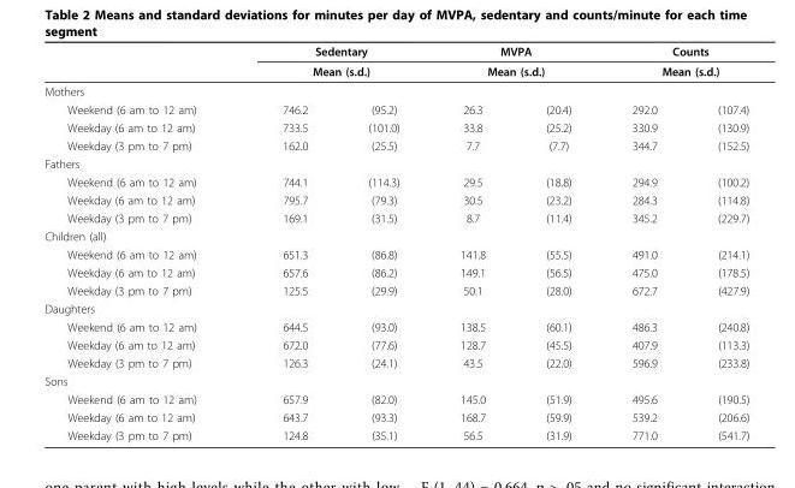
<table><thead><tr><td rowspan="3">Mothers</td><td rowspan="2" colspan="2">Sedentary Mean (s.d.)</td><td rowspan="2" colspan="2">MVPA Mean (s.d.)</td><td rowspan="2" colspan="2">Counts Mean (s.d.)</td></tr><tr></tr><tr><td></td><td></td><td></td><td></td><td></td><td></td></tr></thead><tbody><tr><td>Weekend (6 am to 12 am)</td><td>746.2</td><td>(95.2)</td><td>26.3</td><td>(20.4)</td><td>292.0</td><td>(107.4)</td></tr><tr><td>Weekday (6 am to 12 am)</td><td>733.5</td><td>(101.0)</td><td>33.8</td><td>(25.2)</td><td>330.9</td><td>(130.9)</td></tr><tr><td>Weekday (3 pm to 7 pm)</td><td>162.0</td><td>(25.5)</td><td>7.7</td><td>(7.7)</td><td>344.7</td><td>(152.5)</td></tr><tr><td colspan="7">Fathers</td></tr><tr><td>Weekend (6 am to 12 am)</td><td>744.1</td><td>(114.3)</td><td>29.5</td><td>(18.8)</td><td>294.9</td><td>(100.2)</td></tr><tr><td>Weekday (6 am to 12 am)</td><td>795.7</td><td>(79.3)</td><td>30.5</td><td>(23.2)</td><td>284.3</td><td>(114.8)</td></tr><tr><td>Weekday (3 pm to 7 pm)</td><td>169.1</td><td>(31.5)</td><td>8.7</td><td>(11.4)</td><td>345.2</td><td>(229.7)</td></tr><tr><td colspan="7">Children (all)</td></tr><tr><td>Weekend (6 am to 12 am)</td><td>651.3</td><td>(86.8)</td><td>141.8</td><td>(55.5)</td><td>491.0</td><td>(214.1)</td></tr><tr><td>Weekday (6 am to 12 am)</td><td>657.6</td><td>(86.2)</td><td>149.1</td><td>(56.5)</td><td>475.0</td><td>(178.5)</td></tr><tr><td>Weekday (3 pm to 7 pm)</td><td>125.5</td><td>(29.9)</td><td>50.1</td><td>(28.0)</td><td>672.7</td><td>(427.9)</td></tr><tr><td colspan="7">Daughters</td></tr><tr><td>Weekend (6 am to 12 am)</td><td>644.5</td><td>(93.0)</td><td>138.5</td><td>(60.1)</td><td>486.3</td><td>(240.8)</td></tr><tr><td>Weekday (6 am to 12 am)</td><td>672.0</td><td>(77.6)</td><td>128.7</td><td>(45.5)</td><td>407.9</td><td>(113.3)</td></tr><tr><td>Weekday (3 pm to 7 pm)</td><td>126.3</td><td>(24.1)</td><td>43.5</td><td>(22.0)</td><td>596.9</td><td>(233.8)</td></tr><tr><td colspan="7">Sons</td></tr><tr><td>Weekend (6 am to 12 am)</td><td>657.9</td><td>(82.0)</td><td>145.0</td><td>(51.9)</td><td>495.6</td><td>(190.5)</td></tr><tr><td>Weekday (6 am to 12 am)</td><td>643.7</td><td>(93.3)</td><td>168.7</td><td>(59.9)</td><td>539.2</td><td>(206.6)</td></tr><tr><td>Weekday (3 pm to 7 pm)</td><td>124.8</td><td>(35.1)</td><td>56.5</td><td>(31.9)</td><td>771.0</td><td>(541.7)</td></tr></tbody></table>